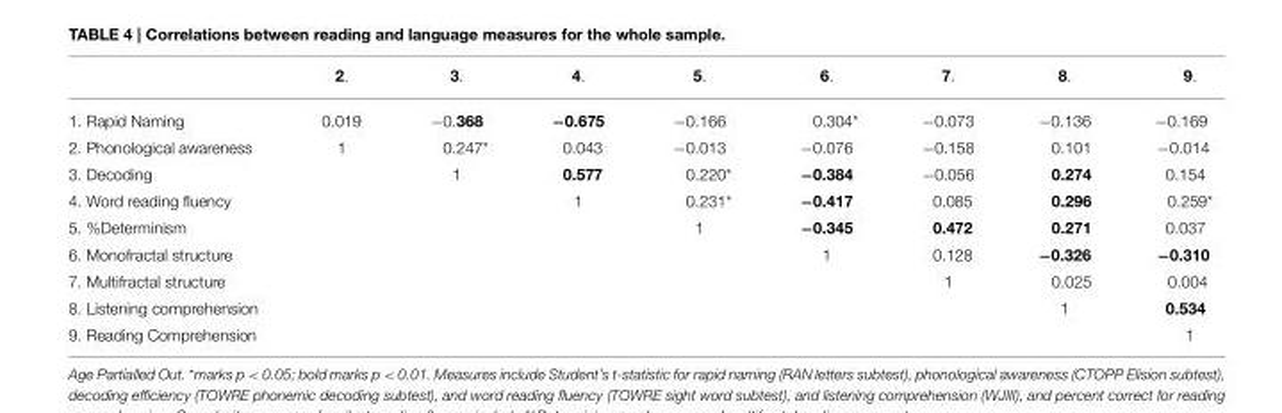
<table><thead><tr><td></td><td>2.</td><td>3.</td><td>4.</td><td>5.</td><td>6.</td><td>7.</td><td>8.</td><td>9.</td></tr></thead><tbody><tr><td>1. Rapid Naming</td><td>0.019</td><td>−0.368</td><td>−0.675</td><td>−0.166</td><td>0.304*</td><td>−0.073</td><td>−0.136</td><td>−0.169</td></tr><tr><td>2. Phonological awareness</td><td>1</td><td>0.247*</td><td>0.043</td><td>−0.013</td><td>−0.076</td><td>−0.158</td><td>0.101</td><td>−0.014</td></tr><tr><td>3. Decoding</td><td></td><td>1</td><td>0.577</td><td>0.220*</td><td>−0.384</td><td>−0.056</td><td>0.274</td><td>0.154</td></tr><tr><td>4. Word reading fluency</td><td></td><td></td><td>1</td><td>0.231*</td><td>−0.417</td><td>0.085</td><td>0.296</td><td>0.259*</td></tr><tr><td>5. %Determinism</td><td></td><td></td><td></td><td>1</td><td>−0.345</td><td>0.472</td><td>0.271</td><td>0.037</td></tr><tr><td>6. Monofractal structure</td><td></td><td></td><td></td><td></td><td>1</td><td>0.128</td><td>−0.326</td><td>−0.310</td></tr><tr><td>7. Multifractal structure</td><td></td><td></td><td></td><td></td><td></td><td>1</td><td>0.025</td><td>0.004</td></tr><tr><td>8. Listening comprehension</td><td></td><td></td><td></td><td></td><td></td><td></td><td>1</td><td>0.534</td></tr><tr><td>9. Reading Comprehension</td><td></td><td></td><td></td><td></td><td></td><td></td><td></td><td>1</td></tr></tbody></table>